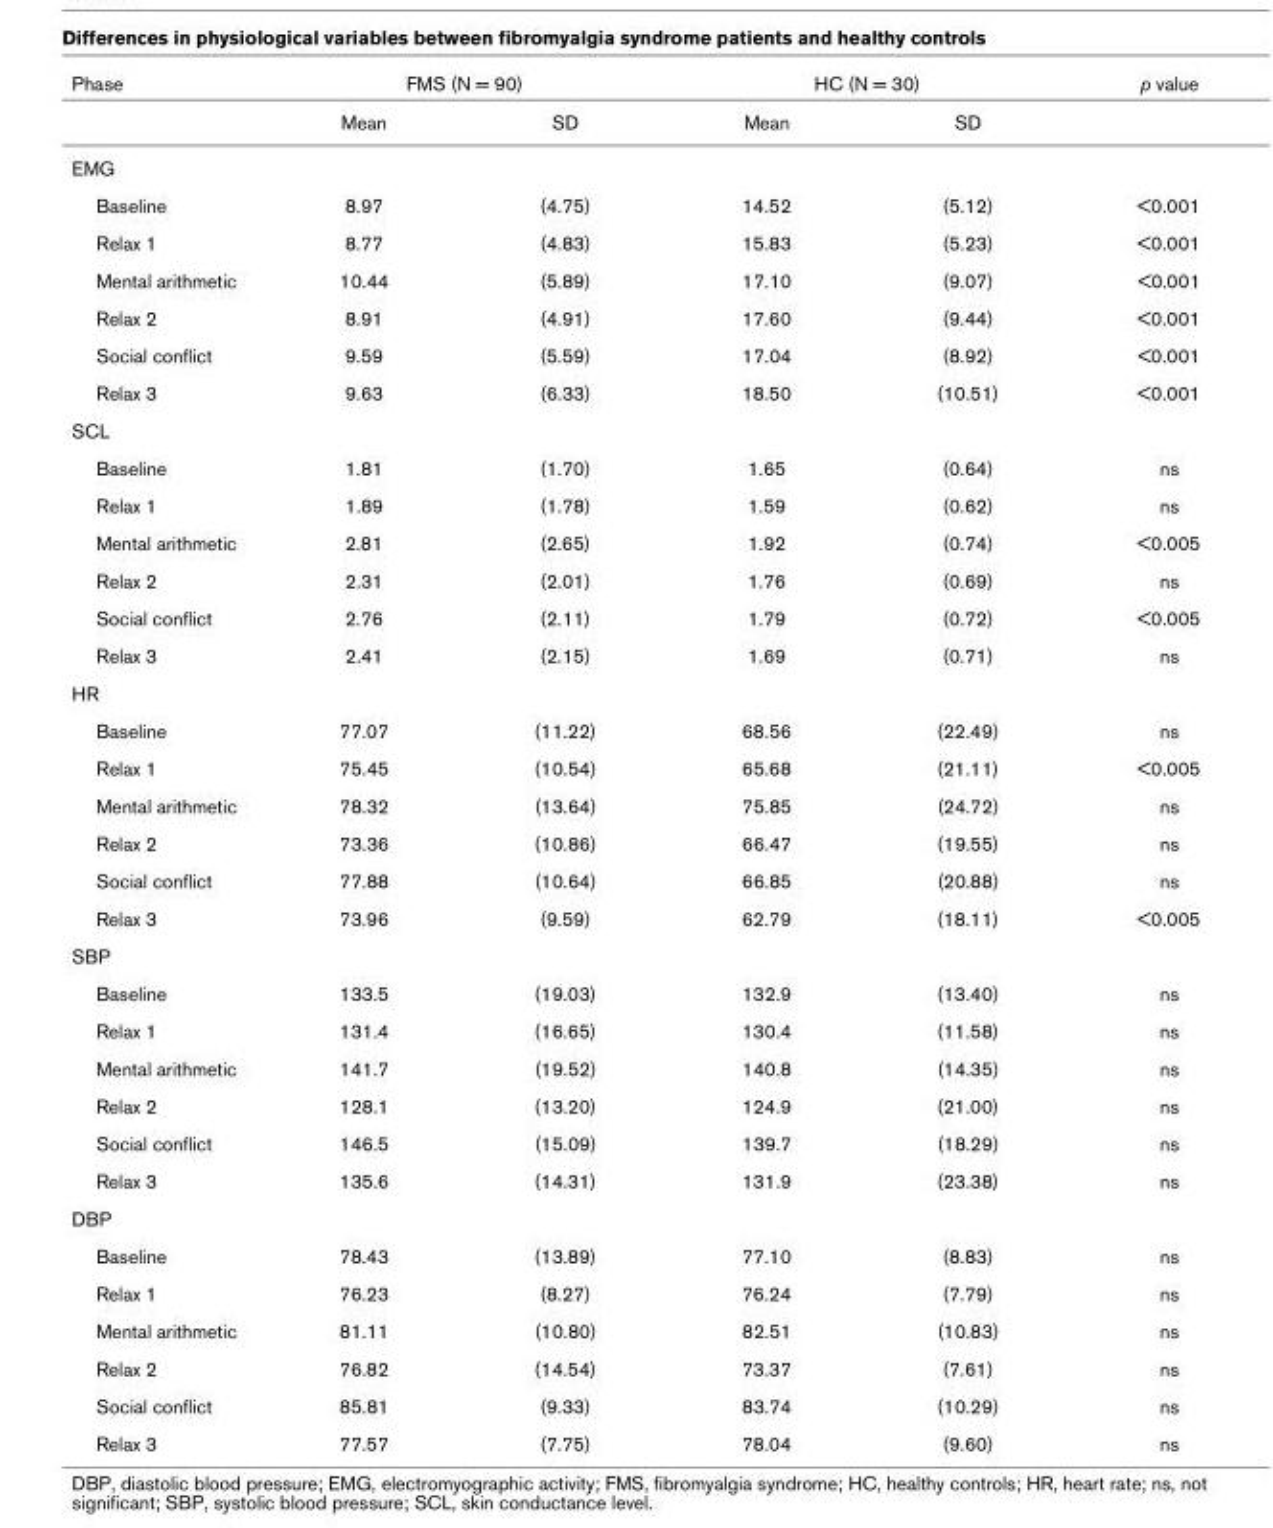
<table><thead><tr><td rowspan="2">Phase</td><td colspan="2">FMS (N = 90)</td><td colspan="2">HC (N = 30)</td><td rowspan="2">p value</td></tr><tr><td>Mean</td><td>SD</td><td>Mean</td><td>SD</td></tr></thead><tbody><tr><td colspan="6">EMG</td></tr><tr><td>Baseline</td><td>8.97</td><td>(4.75)</td><td>14.52</td><td>(5.12)</td><td>&lt;0.001</td></tr><tr><td>Relax 1</td><td>8.77</td><td>(4.83)</td><td>15.83</td><td>(5.23)</td><td>&lt;0.001</td></tr><tr><td>Mental arithmetic</td><td>10.44</td><td>(5.89)</td><td>17.10</td><td>(9.07)</td><td>&lt;0.001</td></tr><tr><td>Relax 2</td><td>8.91</td><td>(4.91)</td><td>17.60</td><td>(9.44)</td><td>&lt;0.001</td></tr><tr><td>Social conflict</td><td>9.59</td><td>(5.59)</td><td>17.04</td><td>(8.92)</td><td>&lt;0.001</td></tr><tr><td>Relax 3</td><td>9.63</td><td>(6.33)</td><td>18.50</td><td>(10.51)</td><td>&lt;0.001</td></tr><tr><td colspan="6">SCL</td></tr><tr><td>Baseline</td><td>1.81</td><td>(1.70)</td><td>1.65</td><td>(0.64)</td><td>ns</td></tr><tr><td>Relax 1</td><td>1.89</td><td>(1.78)</td><td>1.59</td><td>(0.62)</td><td>ns</td></tr><tr><td>Mental arithmetic</td><td>2.81</td><td>(2.65)</td><td>1.92</td><td>(0.74)</td><td>&lt;0.005</td></tr><tr><td>Relax 2</td><td>2.31</td><td>(2.01)</td><td>1.76</td><td>(0.69)</td><td>ns</td></tr><tr><td>Social conflict</td><td>2.76</td><td>(2.11)</td><td>1.79</td><td>(0.72)</td><td>&lt;0.005</td></tr><tr><td>Relax 3</td><td>2.41</td><td>(2.15)</td><td>1.69</td><td>(0.71)</td><td>ns</td></tr><tr><td colspan="6">HR</td></tr><tr><td>Baseline</td><td>77.07</td><td>(11.22)</td><td>68.56</td><td>(22.49)</td><td>ns</td></tr><tr><td>Relax 1</td><td>75.45</td><td>(10.54)</td><td>65.68</td><td>(21.11)</td><td>&lt;0.005</td></tr><tr><td>Mental arithmetic</td><td>78.32</td><td>(13.64)</td><td>75.85</td><td>(24.72)</td><td>ns</td></tr><tr><td>Relax 2</td><td>73.36</td><td>(10.86)</td><td>66.47</td><td>(19.55)</td><td>ns</td></tr><tr><td>Social conflict</td><td>77.88</td><td>(10.64)</td><td>66.85</td><td>(20.88)</td><td>ns</td></tr><tr><td>Relax 3</td><td>73.96</td><td>(9.59)</td><td>62.79</td><td>(18.11)</td><td>&lt;0.005</td></tr><tr><td colspan="6">SBP</td></tr><tr><td>Baseline</td><td>133.5</td><td>(19.03)</td><td>132.9</td><td>(13.40)</td><td>ns</td></tr><tr><td>Relax 1</td><td>131.4</td><td>(16.65)</td><td>130.4</td><td>(11.58)</td><td>ns</td></tr><tr><td>Mental arithmetic</td><td>141.7</td><td>(19.52)</td><td>140.8</td><td>(14.35)</td><td>ns</td></tr><tr><td>Relax 2</td><td>128.1</td><td>(13.20)</td><td>124.9</td><td>(21.00)</td><td>ns</td></tr><tr><td>Social conflict</td><td>146.5</td><td>(15.09)</td><td>139.7</td><td>(18.29)</td><td>ns</td></tr><tr><td>Relax 3</td><td>135.6</td><td>(14.31)</td><td>131.9</td><td>(23.38)</td><td>ns</td></tr><tr><td colspan="6">DBP</td></tr><tr><td>Baseline</td><td>78.43</td><td>(13.89)</td><td>77.10</td><td>(8.83)</td><td>ns</td></tr><tr><td>Relax 1</td><td>76.23</td><td>(8.27)</td><td>76.24</td><td>(7.79)</td><td>ns</td></tr><tr><td>Mental arithmetic</td><td>81.11</td><td>(10.80)</td><td>82.51</td><td>(10.83)</td><td>ns</td></tr><tr><td>Relax 2</td><td>76.82</td><td>(14.54)</td><td>73.37</td><td>(7.61)</td><td>ns</td></tr><tr><td>Social conflict</td><td>85.81</td><td>(9.33)</td><td>83.74</td><td>(10.29)</td><td>ns</td></tr><tr><td>Relax 3</td><td>77.57</td><td>(7.75)</td><td>78.04</td><td>(9.60)</td><td>ns</td></tr></tbody></table>